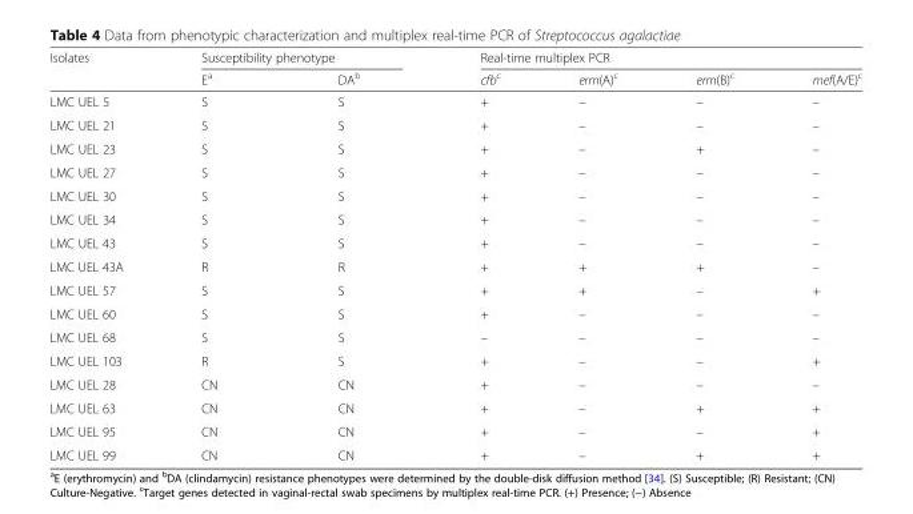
<table><thead><tr><td rowspan="2">Isolates</td><td colspan="2">Susceptibility phenotype</td><td colspan="4">Real-time multiplex PCR</td></tr><tr><td>E<sup>a</sup></td><td>DA<sup>b</sup></td><td>cfb<sup>c</sup></td><td>erm(A)<sup>c</sup></td><td>erm(B)<sup>c</sup></td><td>mef(A/E)<sup>c</sup></td></tr></thead><tbody><tr><td>LMC UEL 5</td><td>S</td><td>S</td><td>+</td><td>–</td><td>–</td><td>–</td></tr><tr><td>LMC UEL 21</td><td>S</td><td>S</td><td>+</td><td>–</td><td>–</td><td>–</td></tr><tr><td>LMC UEL 23</td><td>S</td><td>S</td><td>+</td><td>–</td><td>+</td><td>–</td></tr><tr><td>LMC UEL 27</td><td>S</td><td>S</td><td>+</td><td>–</td><td>–</td><td>–</td></tr><tr><td>LMC UEL 30</td><td>S</td><td>S</td><td>+</td><td>–</td><td>–</td><td>–</td></tr><tr><td>LMC UEL 34</td><td>S</td><td>S</td><td>+</td><td>–</td><td>–</td><td>–</td></tr><tr><td>LMC UEL 43</td><td>S</td><td>S</td><td>+</td><td>–</td><td>–</td><td>–</td></tr><tr><td>LMC UEL 43A</td><td>R</td><td>R</td><td>+</td><td>+</td><td>+</td><td>–</td></tr><tr><td>LMC UEL 57</td><td>S</td><td>S</td><td>+</td><td>+</td><td>–</td><td>+</td></tr><tr><td>LMC UEL 60</td><td>S</td><td>S</td><td>+</td><td>–</td><td>–</td><td>–</td></tr><tr><td>LMC UEL 68</td><td>S</td><td>S</td><td>–</td><td>–</td><td>–</td><td>–</td></tr><tr><td>LMC UEL 103</td><td>R</td><td>S</td><td>+</td><td>–</td><td>–</td><td>+</td></tr><tr><td>LMC UEL 28</td><td>CN</td><td>CN</td><td>+</td><td>–</td><td>–</td><td>–</td></tr><tr><td>LMC UEL 63</td><td>CN</td><td>CN</td><td>+</td><td>–</td><td>+</td><td>+</td></tr><tr><td>LMC UEL 95</td><td>CN</td><td>CN</td><td>+</td><td>–</td><td>–</td><td>+</td></tr><tr><td>LMC UEL 99</td><td>CN</td><td>CN</td><td>+</td><td>–</td><td>+</td><td>+</td></tr></tbody></table>